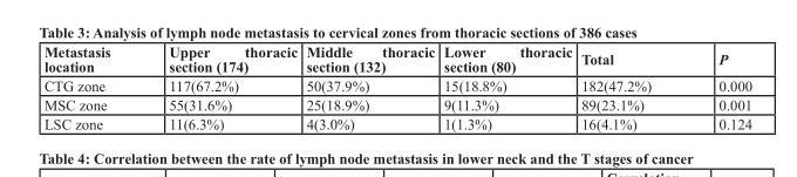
<table><thead><tr><td>Metastasis location</td><td>upper thoracic section (174)</td><td>Middle thoracic section (132)</td><td>lower thoracic section (80)</td><td>total</td><td>P</td></tr></thead><tbody><tr><td>CTG zone</td><td>117(67.2%)</td><td>50(37.9%)</td><td>15(18.8%)</td><td>182(47.2%)</td><td>0.000</td></tr><tr><td>MSC zone</td><td>55(31.6%)</td><td>25(18.9%)</td><td>9(11.3%)</td><td>89(23.1%)</td><td>0.001</td></tr><tr><td>LSC zone</td><td>11(6.3%)</td><td>4(3.0%)</td><td>1(1.3%)</td><td>16(4.1%)</td><td>0.124</td></tr></tbody></table>